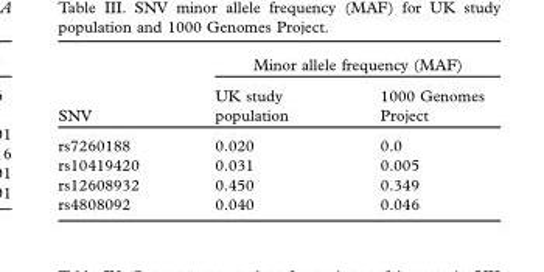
<table><thead><tr><td rowspan="2">SNV</td><td colspan="2">Minor allele frequency (MAF)</td></tr><tr><td>UK study population</td><td>1000 Genomes Project</td></tr></thead><tbody><tr><td>rs7260188</td><td>0.020</td><td>0.0</td></tr><tr><td>rs10419420</td><td>0.031</td><td>0.005</td></tr><tr><td>rs12608932</td><td>0.450</td><td>0.349</td></tr><tr><td>rs4808092</td><td>0.040</td><td>0.046</td></tr></tbody></table>